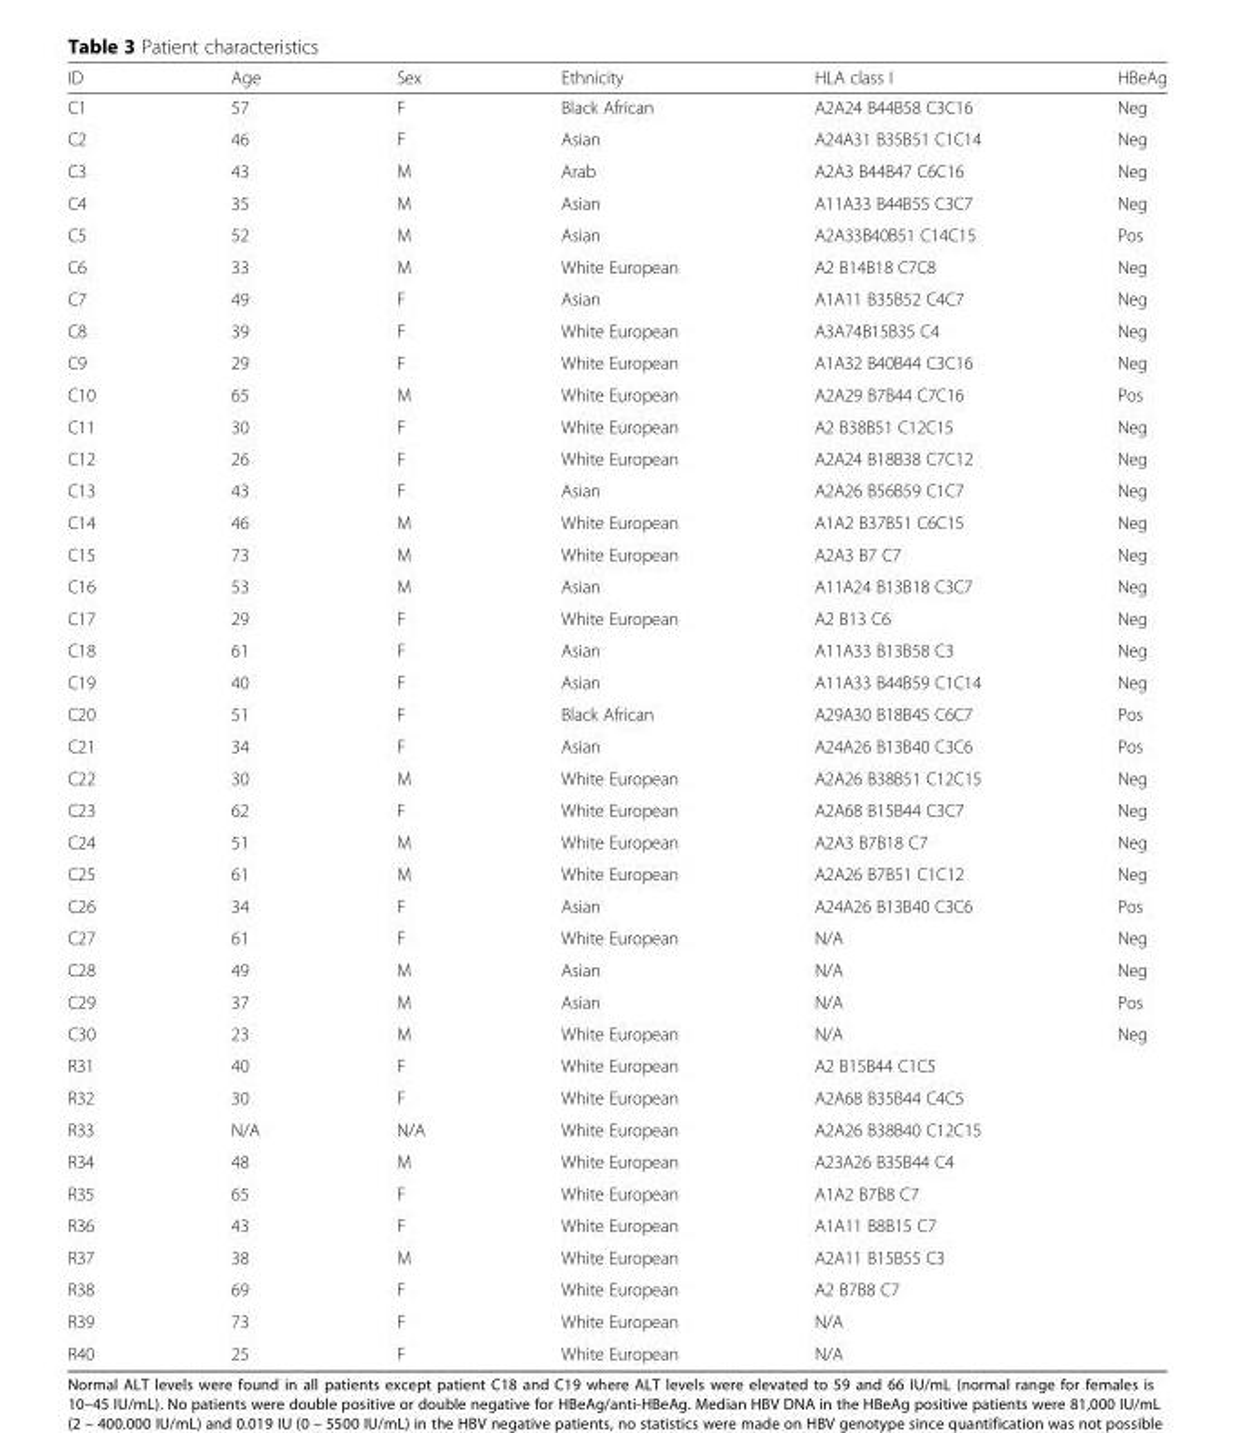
<table><thead><tr><td>ID</td><td>Age</td><td>Sex</td><td>Ethnicity</td><td>HLA class I</td><td>HBeAg</td></tr></thead><tbody><tr><td>C1</td><td>57</td><td>F</td><td>Black African</td><td>A2A24 B44B58 C3C16</td><td>Neg</td></tr><tr><td>C2</td><td>46</td><td>F</td><td>Asian</td><td>A24A31 B35B51 C1C14</td><td>Neg</td></tr><tr><td>C3</td><td>43</td><td>M</td><td>Arab</td><td>A2A3 B44B47 C6C16</td><td>Neg</td></tr><tr><td>C4</td><td>35</td><td>M</td><td>Asian</td><td>A11A33 B44B55 C3C7</td><td>Neg</td></tr><tr><td>C5</td><td>52</td><td>M</td><td>Asian</td><td>A2A33B40B51 C14C15</td><td>Pos</td></tr><tr><td>C6</td><td>33</td><td>M</td><td>White European</td><td>A2 B14B18 C7C8</td><td>Neg</td></tr><tr><td>C7</td><td>49</td><td>F</td><td>Asian</td><td>A1A11 B35B52 C4C7</td><td>Neg</td></tr><tr><td>C8</td><td>39</td><td>F</td><td>White European</td><td>A3A74B15B35 C4</td><td>Neg</td></tr><tr><td>C9</td><td>29</td><td>F</td><td>White European</td><td>A1A32 B40B44 C3C16</td><td>Neg</td></tr><tr><td>C10</td><td>65</td><td>M</td><td>White European</td><td>A2A29 B7B44 C7C16</td><td>Pos</td></tr><tr><td>C11</td><td>30</td><td>F</td><td>White European</td><td>A2 B38B51 C12C15</td><td>Neg</td></tr><tr><td>C12</td><td>26</td><td>F</td><td>White European</td><td>A2A24 B18B38 C7C12</td><td>Neg</td></tr><tr><td>C13</td><td>43</td><td>F</td><td>Asian</td><td>A2A26 B56B59 C1C7</td><td>Neg</td></tr><tr><td>C14</td><td>46</td><td>M</td><td>White European</td><td>A1A2 B37B51 C6C15</td><td>Neg</td></tr><tr><td>C15</td><td>73</td><td>M</td><td>White European</td><td>A2A3 B7 C7</td><td>Neg</td></tr><tr><td>C16</td><td>53</td><td>M</td><td>Asian</td><td>A11A24 B13B18 C3C7</td><td>Neg</td></tr><tr><td>C17</td><td>29</td><td>F</td><td>White European</td><td>A2 B13 C6</td><td>Neg</td></tr><tr><td>C18</td><td>61</td><td>F</td><td>Asian</td><td>A11A33 B13B58 C3</td><td>Neg</td></tr><tr><td>C19</td><td>40</td><td>F</td><td>Asian</td><td>A11A33 B44B59 C1C14</td><td>Neg</td></tr><tr><td>C20</td><td>51</td><td>F</td><td>Black African</td><td>A29A30 B18B45 C6C7</td><td>Pos</td></tr><tr><td>C21</td><td>34</td><td>F</td><td>Asian</td><td>A24A26 B13B40 C3C6</td><td>Pos</td></tr><tr><td>C22</td><td>30</td><td>M</td><td>White European</td><td>A2A26 B38B51 C12C15</td><td>Neg</td></tr><tr><td>C23</td><td>62</td><td>F</td><td>White European</td><td>A2A68 B15B44 C3C7</td><td>Neg</td></tr><tr><td>C24</td><td>51</td><td>M</td><td>White European</td><td>A2A3 B7B18 C7</td><td>Neg</td></tr><tr><td>C25</td><td>61</td><td>M</td><td>White European</td><td>A2A26 B7B51 C1C12</td><td>Neg</td></tr><tr><td>C26</td><td>34</td><td>F</td><td>Asian</td><td>A24A26 B13B40 C3C6</td><td>Pos</td></tr><tr><td>C27</td><td>61</td><td>F</td><td>White European</td><td>N/A</td><td>Neg</td></tr><tr><td>C28</td><td>49</td><td>M</td><td>Asian</td><td>N/A</td><td>Neg</td></tr><tr><td>C29</td><td>37</td><td>M</td><td>Asian</td><td>N/A</td><td>Pos</td></tr><tr><td>C30</td><td>23</td><td>M</td><td>White European</td><td>N/A</td><td>Neg</td></tr><tr><td>R31</td><td>40</td><td>F</td><td>White European</td><td>A2 B15B44 C1C5</td><td></td></tr><tr><td>R32</td><td>30</td><td>F</td><td>White European</td><td>A2A68 B35B44 C4C5</td><td></td></tr><tr><td>R33</td><td>N/A</td><td>N/A</td><td>White European</td><td>A2A26 B38B40 C12C15</td><td></td></tr><tr><td>R34</td><td>48</td><td>M</td><td>White European</td><td>A23A26 B35B44 C4</td><td></td></tr><tr><td>R35</td><td>65</td><td>F</td><td>White European</td><td>A1A2 B7B8 C7</td><td></td></tr><tr><td>R36</td><td>43</td><td>F</td><td>White European</td><td>A1A11 B8B15 C7</td><td></td></tr><tr><td>R37</td><td>38</td><td>M</td><td>White European</td><td>A2A11 B15B55 C3</td><td></td></tr><tr><td>R38</td><td>69</td><td>F</td><td>White European</td><td>A2 B7B8 C7</td><td></td></tr><tr><td>R39</td><td>73</td><td>F</td><td>White European</td><td>N/A</td><td></td></tr><tr><td>R40</td><td>25</td><td>F</td><td>White European</td><td>N/A</td><td></td></tr></tbody></table>